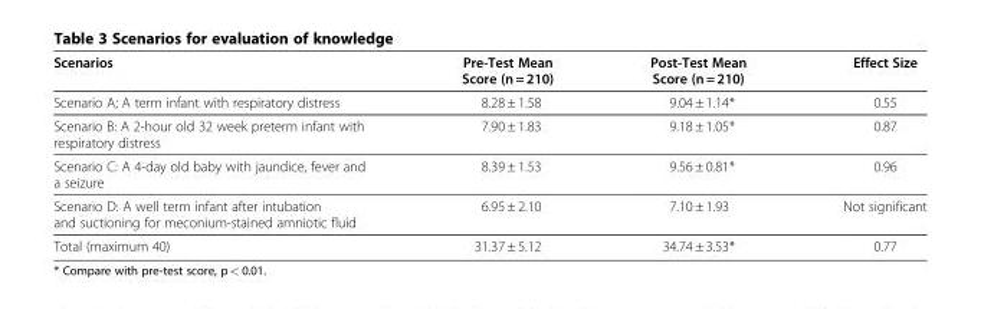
<table><thead><tr><td>Scenarios</td><td>Pre-Test Mean Score (n = 210)</td><td>Post-Test Mean Score (n = 210)</td><td>Effect Size</td></tr></thead><tbody><tr><td>Scenario A; A term infant with respiratory distress</td><td>8.28 ± 1.58</td><td>9.04 ± 1.14*</td><td>0.55</td></tr><tr><td>Scenario B: A 2-hour old 32 week preterm infant with respiratory distress</td><td>7.90 ± 1.83</td><td>9.18 ± 1.05*</td><td>0.87</td></tr><tr><td>Scenario C: A 4-day old baby with jaundice, fever and a seizure</td><td>8.39 ± 1.53</td><td>9.56 ± 0.81*</td><td>0.96</td></tr><tr><td>Scenario D: A well term infant after intubation and suctioning for meconium-stained amniotic fluid</td><td>6.95 ± 2.10</td><td>7.10 ± 1.93</td><td>Not significant</td></tr><tr><td>Total (maximum 40)</td><td>31.37 ± 5.12</td><td>34.74 ± 3.53*</td><td>0.77</td></tr></tbody></table>